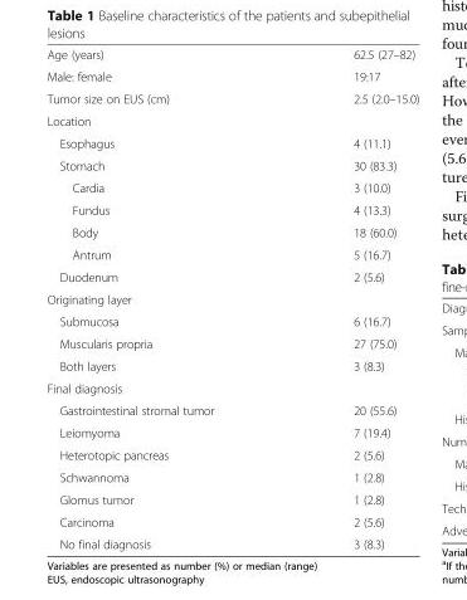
<table><tbody><tr><td>Age (years)</td><td>62.5 (27–82)</td></tr><tr><td>Male: female</td><td>19:17</td></tr><tr><td>Tumor size on EUS (cm)</td><td>2.5 (2.0–15.0)</td></tr><tr><td colspan="2">Location</td></tr><tr><td>Esophagus</td><td>4 (11.1)</td></tr><tr><td>Stomach</td><td>30 (83.3)</td></tr><tr><td>Cardia</td><td>3 (10.0)</td></tr><tr><td>Fundus</td><td>4 (13.3)</td></tr><tr><td>Body</td><td>18 (60.0)</td></tr><tr><td>Antrum</td><td>5 (16.7)</td></tr><tr><td>Duodenum</td><td>2 (5.6)</td></tr><tr><td colspan="2">Originating layer</td></tr><tr><td>Submucosa</td><td>6 (16.7)</td></tr><tr><td>Muscularis propria</td><td>27 (75.0)</td></tr><tr><td>Both layers</td><td>3 (8.3)</td></tr><tr><td colspan="2">Final diagnosis</td></tr><tr><td>Gastrointestinal stromal tumor</td><td>20 (55.6)</td></tr><tr><td>Leiomyoma</td><td>7 (19.4)</td></tr><tr><td>Heterotopic pancreas</td><td>2 (5.6)</td></tr><tr><td>Schwannoma</td><td>1 (2.8)</td></tr><tr><td>Glomus tumor</td><td>1 (2.8)</td></tr><tr><td>Carcinoma</td><td>2 (5.6)</td></tr><tr><td>No final diagnosis</td><td>3 (8.3)</td></tr></tbody></table>